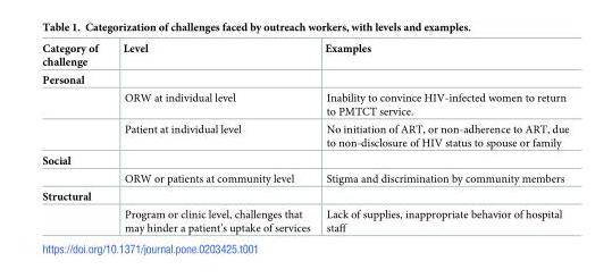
<table><thead><tr><td>Category of challenge</td><td>Level</td><td>Examples</td></tr></thead><tbody><tr><td colspan="3">Personal</td></tr><tr><td></td><td>ORW at individual level</td><td>Inability to convince HIV-infected women to return to PMTCT service.</td></tr><tr><td></td><td>Patient at individual level</td><td>No initiation of ART, or non-adherence to ART, due to non-disclosure of HIV status to spouse or family</td></tr><tr><td colspan="3">Social</td></tr><tr><td></td><td>ORW or patients at community level</td><td>Stigma and discrimination by community members</td></tr><tr><td colspan="3">Structural</td></tr><tr><td></td><td>Program or clinic level, challenges that may hinder a patient’s uptake of services</td><td>Lack of supplies, inappropriate behavior of hospital staff</td></tr></tbody></table>